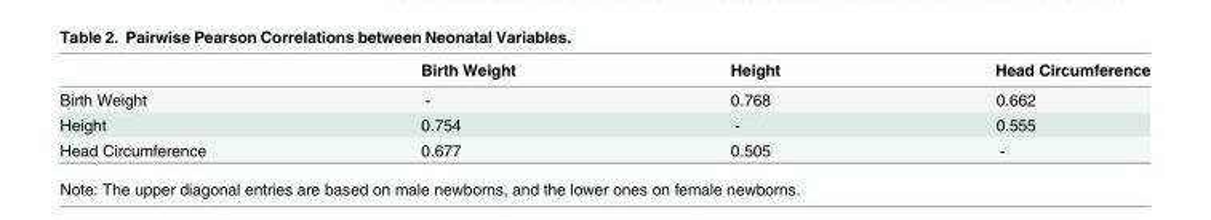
<table><thead><tr><td></td><td>Birth Weight</td><td>Height</td><td>Head Circumference</td></tr></thead><tbody><tr><td>Birth Weight</td><td>-</td><td>0.768</td><td>0.662</td></tr><tr><td>Height</td><td>0.754</td><td>-</td><td>0.555</td></tr><tr><td>Head Circumference</td><td>0.677</td><td>0.505</td><td>-</td></tr></tbody></table>